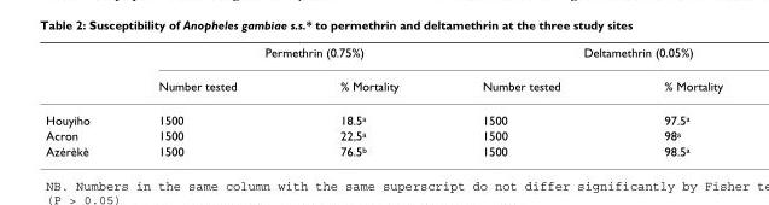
<table><thead><tr><td rowspan="2"></td><td colspan="2">Permethrin (0.75%)</td><td colspan="2">Deltamethrin (0.05%)</td></tr><tr><td>Number tested</td><td>% Mortality</td><td>Number tested</td><td>% Mortality</td></tr></thead><tbody><tr><td>Houyiho</td><td>1500</td><td>18.5<sup>a</sup></td><td>1500</td><td>97.5<sup>a</sup></td></tr><tr><td>Acron</td><td>1500</td><td>22,5<sup>a</sup></td><td>1500</td><td>98<sup>a</sup></td></tr><tr><td>Azérèkè</td><td>1500</td><td>76.5<sup>b</sup></td><td>1500</td><td>98.5<sup>a</sup></td></tr></tbody></table>